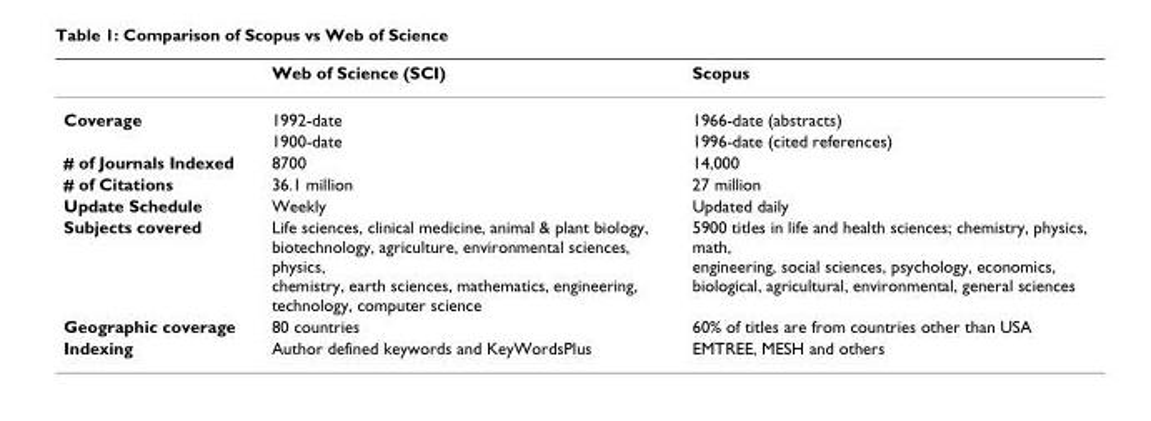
<table><thead><tr><td></td><td>Web of Science (SCI)</td><td>Scopus</td></tr></thead><tbody><tr><td rowspan="2">Coverage</td><td>1992-date</td><td>1966-date (abstracts)</td></tr><tr><td>1900-date</td><td>1996-date (cited references)</td></tr><tr><td># of Journals Indexed</td><td>8700</td><td>14,000</td></tr><tr><td># of Citations</td><td>36.1 million</td><td>27 million</td></tr><tr><td>Update Schedule</td><td>Weekly</td><td>Updated daily</td></tr><tr><td>Subjects covered</td><td>Life sciences, clinical medicine, animal &amp; plant biology, biotechnology, agriculture, environmental sciences, physics, chemistry, earth sciences, mathematics, engineering, technology, computer science</td><td>5900 titles in life and health sciences; chemistry, physics, math, engineering, social sciences, psychology, economics, biological, agricultural, environmental, general sciences</td></tr><tr><td>Geographic coverage</td><td>80 countries</td><td>60% of titles are from countries other than USA</td></tr><tr><td>Indexing</td><td>Author defined keywords and KeyWordsPlus</td><td>EMTREE, MESH and others</td></tr></tbody></table>